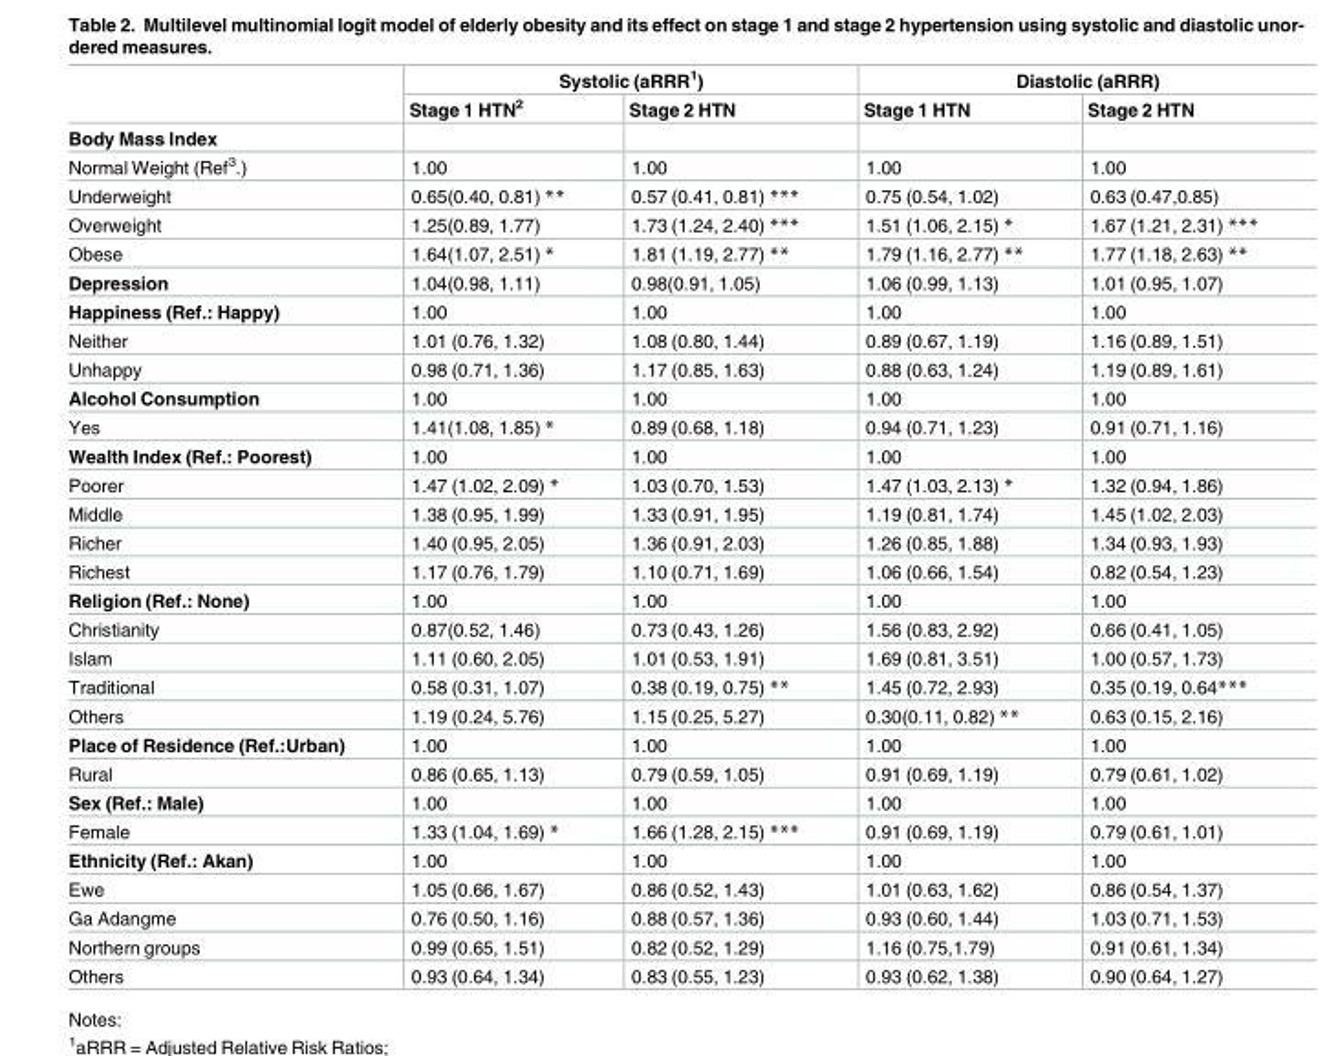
<table><thead><tr><td rowspan="2"></td><td colspan="2">Systolic (aRRR<sup>1</sup>)</td><td colspan="2">Diastolic (aRRR)</td></tr><tr><td>Stage 1 HTN<sup>2</sup></td><td>Stage 2 HTN</td><td>Stage 1 HTN</td><td>Stage 2 HTN</td></tr></thead><tbody><tr><td colspan="5">Body Mass Index</td></tr><tr><td>Normal Weight (Ref<sup>3</sup>.)</td><td>1.00</td><td>1.00</td><td>1.00</td><td>1.00</td></tr><tr><td>Underweight</td><td>0.65(0.40, 0.81) **</td><td>0.57 (0.41, 0.81) ***</td><td>0.75 (0.54, 1.02)</td><td>0.63 (0.47,0.85)</td></tr><tr><td>Overweight</td><td>1.25(0.89, 1.77)</td><td>1.73 (1.24, 2.40) ***</td><td>1.51 (1.06, 2.15) *</td><td>1.67 (1.21, 2.31) ***</td></tr><tr><td>Obese</td><td>1.64(1.07, 2.51) *</td><td>1.81 (1.19, 2.77) **</td><td>1.79 (1.16, 2.77) **</td><td>1.77 (1.18, 2.63) **</td></tr><tr><td>Depression</td><td>1.04(0.98, 1.11)</td><td>0.98(0.91, 1.05)</td><td>1.06 (0.99, 1.13)</td><td>1.01 (0.95, 1.07)</td></tr><tr><td>Happiness (Ref.: Happy)</td><td>1.00</td><td>1.00</td><td>1.00</td><td>1.00</td></tr><tr><td>Neither</td><td>1.01 (0.76, 1.32)</td><td>1.08 (0.80, 1.44)</td><td>0.89 (0.67, 1.19)</td><td>1.16 (0.89, 1.51)</td></tr><tr><td>Unhappy</td><td>0.98 (0.71, 1.36)</td><td>1.17 (0.85, 1.63)</td><td>0.88 (0.63, 1.24)</td><td>1.19 (0.89, 1.61)</td></tr><tr><td>Alcohol Consumption</td><td>1.00</td><td>1.00</td><td>1.00</td><td>1.00</td></tr><tr><td>Yes</td><td>1.41(1.08, 1.85) *</td><td>0.89 (0.68, 1.18)</td><td>0.94 (0.71, 1.23)</td><td>0.91 (0.71, 1.16)</td></tr><tr><td>Wealth Index (Ref.: Poorest)</td><td>1.00</td><td>1.00</td><td>1.00</td><td>1.00</td></tr><tr><td>Poorer</td><td>1.47 (1.02, 2.09) *</td><td>1.03 (0.70, 1.53)</td><td>1.47 (1.03, 2.13) *</td><td>1.32 (0.94, 1.86)</td></tr><tr><td>Middle</td><td>1.38 (0.95, 1.99)</td><td>1.33 (0.91, 1.95)</td><td>1.19 (0.81, 1.74)</td><td>1.45 (1.02, 2.03)</td></tr><tr><td>Richer</td><td>1.40 (0.95, 2.05)</td><td>1.36 (0.91, 2.03)</td><td>1.26 (0.85, 1.88)</td><td>1.34 (0.93, 1.93)</td></tr><tr><td>Richest</td><td>1.17 (0.76, 1.79)</td><td>1.10 (0.71, 1.69)</td><td>1.06 (0.66, 1.54)</td><td>0.82 (0.54, 1.23)</td></tr><tr><td>Religion (Ref.: None)</td><td>1.00</td><td>1.00</td><td>1.00</td><td>1.00</td></tr><tr><td>Christianity</td><td>0.87(0.52, 1.46)</td><td>0.73 (0.43, 1.26)</td><td>1.56 (0.83, 2.92)</td><td>0.66 (0.41, 1.05)</td></tr><tr><td>Islam</td><td>1.11 (0.60, 2.05)</td><td>1.01 (0.53, 1.91)</td><td>1.69 (0.81, 3.51)</td><td>1.00 (0.57, 1.73)</td></tr><tr><td>Traditional</td><td>0.58 (0.31, 1.07)</td><td>0.38 (0.19, 0.75) **</td><td>1.45 (0.72, 2.93)</td><td>0.35 (0.19, 0.64***</td></tr><tr><td>Others</td><td>1.19 (0.24, 5.76)</td><td>1.15 (0.25, 5.27)</td><td>0.30(0.11, 0.82) **</td><td>0.63 (0.15, 2.16)</td></tr><tr><td>Place of Residence (Ref.:Urban)</td><td>1.00</td><td>1.00</td><td>1.00</td><td>1.00</td></tr><tr><td>Rural</td><td>0.86 (0.65, 1.13)</td><td>0.79 (0.59, 1.05)</td><td>0.91 (0.69, 1.19)</td><td>0.79 (0.61, 1.02)</td></tr><tr><td>Sex (Ref.: Male)</td><td>1.00</td><td>1.00</td><td>1.00</td><td>1.00</td></tr><tr><td>Female</td><td>1.33 (1.04, 1.69) *</td><td>1.66 (1.28, 2.15) ***</td><td>0.91 (0.69, 1.19)</td><td>0.79 (0.61, 1.01)</td></tr><tr><td>Ethnicity (Ref.: Akan)</td><td>1.00</td><td>1.00</td><td>1.00</td><td>1.00</td></tr><tr><td>Ewe</td><td>1.05 (0.66, 1.67)</td><td>0.86 (0.52, 1.43)</td><td>1.01 (0.63, 1.62)</td><td>0.86 (0.54, 1.37)</td></tr><tr><td>Ga Adangme</td><td>0.76 (0.50, 1.16)</td><td>0.88 (0.57, 1.36)</td><td>0.93 (0.60, 1.44)</td><td>1.03 (0.71, 1.53)</td></tr><tr><td>Northern groups</td><td>0.99 (0.65, 1.51)</td><td>0.82 (0.52, 1.29)</td><td>1.16 (0.75,1.79)</td><td>0.91 (0.61, 1.34)</td></tr><tr><td>Others</td><td>0.93 (0.64, 1.34)</td><td>0.83 (0.55, 1.23)</td><td>0.93 (0.62, 1.38)</td><td>0.90 (0.64, 1.27)</td></tr></tbody></table>